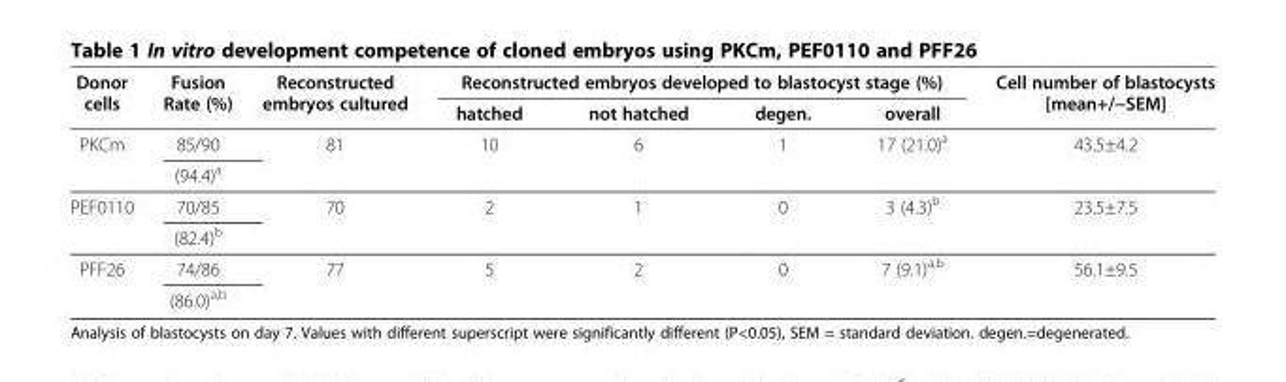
<table><thead><tr><td rowspan="2">Donor cells</td><td rowspan="2">Fusion Rate (%)</td><td rowspan="2">Reconstructed embryos cultured</td><td colspan="4">Reconstructed embryos developed to blastocyst stage (%)</td><td rowspan="2">Cell number of blastocysts [mean+/−SEM]</td></tr><tr><td>hatched</td><td>not hatched</td><td>degen.</td><td>overall</td></tr></thead><tbody><tr><td rowspan="2">PKCm</td><td>85/90</td><td rowspan="2">81</td><td rowspan="2">10</td><td rowspan="2">6</td><td rowspan="2">1</td><td rowspan="2">17 (21.0)<sup>a</sup></td><td rowspan="2">43.5±4.2</td></tr><tr><td>(94.4)<sup>a</sup></td></tr><tr><td rowspan="2">PEF0110</td><td>70/85</td><td rowspan="2">70</td><td rowspan="2">2</td><td rowspan="2">1</td><td rowspan="2">0</td><td rowspan="2">3 (4.3)<sup>b</sup></td><td rowspan="2">23.5±7.5</td></tr><tr><td>(82.4)<sup>b</sup></td></tr><tr><td rowspan="2">PFF26</td><td>74/86</td><td rowspan="2">77</td><td rowspan="2">5</td><td rowspan="2">2</td><td rowspan="2">0</td><td rowspan="2">7 (9.1)<sup>a,b</sup></td><td rowspan="2">56.1±9.5</td></tr><tr><td>(86.0)<sup>a,b</sup></td></tr></tbody></table>